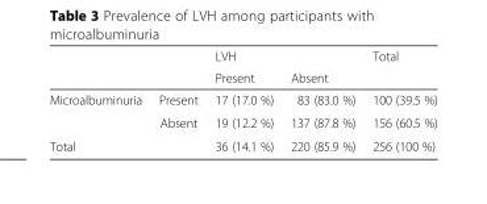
<table><thead><tr><td rowspan="2"></td><td rowspan="2"></td><td colspan="2">LVH</td><td rowspan="2">Total</td></tr><tr><td>Present</td><td>Absent</td></tr></thead><tbody><tr><td rowspan="2">Microalbuminuria</td><td>Present</td><td>17 (17.0 %)</td><td>83 (83.0 %)</td><td>100 (39.5 %)</td></tr><tr><td>Absent</td><td>19 (12.2 %)</td><td>137 (87.8 %)</td><td>156 (60.5 %)</td></tr><tr><td colspan="2">Total</td><td>36 (14.1 %)</td><td>220 (85.9 %)</td><td>256 (100 %)</td></tr></tbody></table>